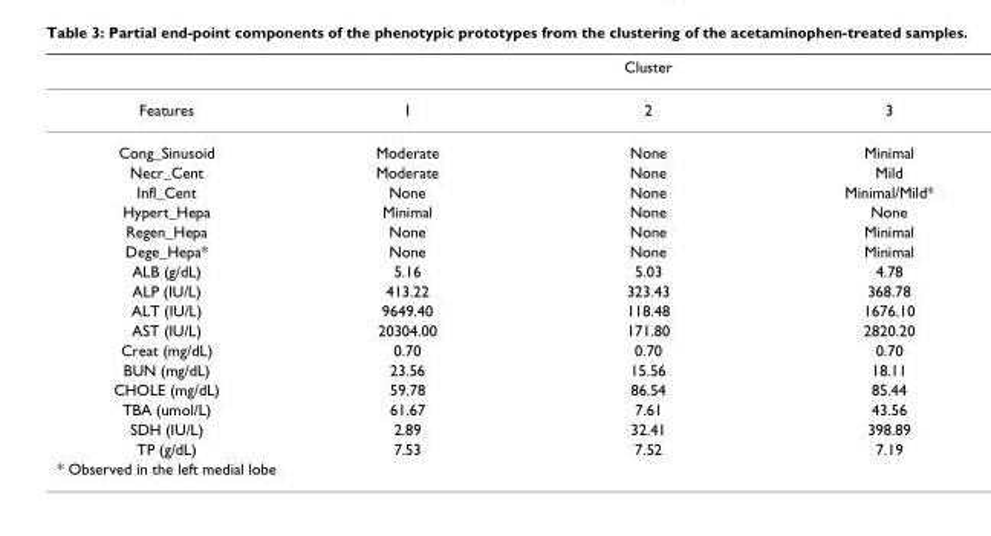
<table><thead><tr><td rowspan="2">Features</td><td colspan="3">Cluster</td></tr><tr><td>1</td><td>2</td><td>3</td></tr></thead><tbody><tr><td>Cong_Sinusoid</td><td>Moderate</td><td>None</td><td>Minimal</td></tr><tr><td>Necr_Cent</td><td>Moderate</td><td>None</td><td>Mild</td></tr><tr><td>Infl_Cent</td><td>None</td><td>None</td><td>Minimal/Mild*</td></tr><tr><td>Hypert_Hepa</td><td>Minimal</td><td>None</td><td>None</td></tr><tr><td>Regen_Hepa</td><td>None</td><td>None</td><td>Minimal</td></tr><tr><td>Dege_Hepa*</td><td>None</td><td>None</td><td>Minimal</td></tr><tr><td>ALB (g/dL)</td><td>5.16</td><td>5.03</td><td>4.78</td></tr><tr><td>ALP (IU/L)</td><td>413.22</td><td>323.43</td><td>368.78</td></tr><tr><td>ALT (IU/L)</td><td>9649.40</td><td>118.48</td><td>1676.10</td></tr><tr><td>AST (IU/L)</td><td>20304.00</td><td>171.80</td><td>2820.20</td></tr><tr><td>Creat (mg/dL)</td><td>0.70</td><td>0.70</td><td>0.70</td></tr><tr><td>BUN (mg/dL)</td><td>23.56</td><td>15.56</td><td>18.11</td></tr><tr><td>CHOLE (mg/dL)</td><td>59.78</td><td>86.54</td><td>85.44</td></tr><tr><td>TBA (umol/L)</td><td>61.67</td><td>7.61</td><td>43.56</td></tr><tr><td>SDH (IU/L)</td><td>2.89</td><td>32.41</td><td>398.89</td></tr><tr><td>TP (g/dL)</td><td>7.53</td><td>7.52</td><td>7.19</td></tr><tr><td>* Observed in the left medial lobe</td><td></td><td></td><td></td></tr></tbody></table>